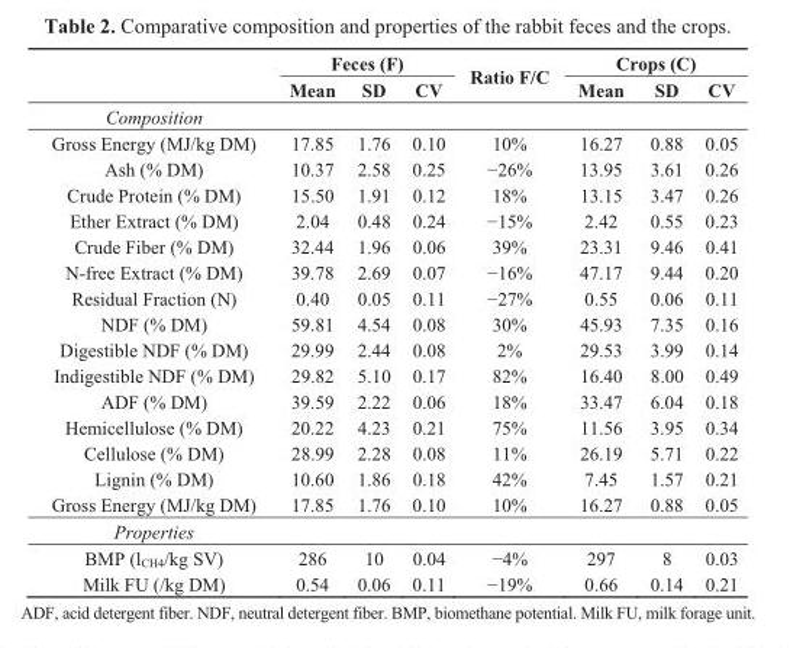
<table><thead><tr><td rowspan="2"></td><td colspan="3">Feces (F)</td><td rowspan="2">Ratio F/C</td><td colspan="3">Crops (C)</td></tr><tr><td>Mean</td><td>SD</td><td>CV</td><td>Mean</td><td>SD</td><td>CV</td></tr></thead><tbody><tr><td colspan="8">Composition</td></tr><tr><td>Gross Energy (MJ/kg DM)</td><td>17.85</td><td>1.76</td><td>0.10</td><td>10%</td><td>16.27</td><td>0.88</td><td>0.05</td></tr><tr><td>Ash (% DM)</td><td>10.37</td><td>2.58</td><td>0.25</td><td>−26%</td><td>13.95</td><td>3.61</td><td>0.26</td></tr><tr><td>Crude Protein (% DM)</td><td>15.50</td><td>1.91</td><td>0.12</td><td>18%</td><td>13.15</td><td>3.47</td><td>0.26</td></tr><tr><td>Ether Extract (% DM)</td><td>2.04</td><td>0.48</td><td>0.24</td><td>−15%</td><td>2.42</td><td>0.55</td><td>0.23</td></tr><tr><td>Crude Fiber (% DM)</td><td>32.44</td><td>1.96</td><td>0.06</td><td>39%</td><td>23.31</td><td>9.46</td><td>0.41</td></tr><tr><td>N-free Extract (% DM)</td><td>39.78</td><td>2.69</td><td>0.07</td><td>−16%</td><td>47.17</td><td>9.44</td><td>0.20</td></tr><tr><td>Residual Fraction (N)</td><td>0.40</td><td>0.05</td><td>0.11</td><td>−27%</td><td>0.55</td><td>0.06</td><td>0.11</td></tr><tr><td>NDF (% DM)</td><td>59.81</td><td>4.54</td><td>0.08</td><td>30%</td><td>45.93</td><td>7.35</td><td>0.16</td></tr><tr><td>Digestible NDF (% DM)</td><td>29.99</td><td>2.44</td><td>0.08</td><td>2%</td><td>29.53</td><td>3.99</td><td>0.14</td></tr><tr><td>Indigestible NDF (% DM)</td><td>29.82</td><td>5.10</td><td>0.17</td><td>82%</td><td>16.40</td><td>8.00</td><td>0.49</td></tr><tr><td>ADF (% DM)</td><td>39.59</td><td>2.22</td><td>0.06</td><td>18%</td><td>33.47</td><td>6.04</td><td>0.18</td></tr><tr><td>Hemicellulose (% DM)</td><td>20.22</td><td>4.23</td><td>0.21</td><td>75%</td><td>11.56</td><td>3.95</td><td>0.34</td></tr><tr><td>Cellulose (% DM)</td><td>28.99</td><td>2.28</td><td>0.08</td><td>11%</td><td>26.19</td><td>5.71</td><td>0.22</td></tr><tr><td>Lignin (% DM)</td><td>10.60</td><td>1.86</td><td>0.18</td><td>42%</td><td>7.45</td><td>1.57</td><td>0.21</td></tr><tr><td>Gross Energy (MJ/kg DM)</td><td>17.85</td><td>1.76</td><td>0.10</td><td>10%</td><td>16.27</td><td>0.88</td><td>0.05</td></tr><tr><td colspan="8">Properties</td></tr><tr><td>BMP (l<sub>CH4</sub>/kg SV)</td><td>286</td><td>10</td><td>0.04</td><td>−4%</td><td>297</td><td>8</td><td>0.03</td></tr><tr><td>Milk FU (/kg DM)</td><td>0.54</td><td>0.06</td><td>0.11</td><td>−19%</td><td>0.66</td><td>0.14</td><td>0.21</td></tr></tbody></table>